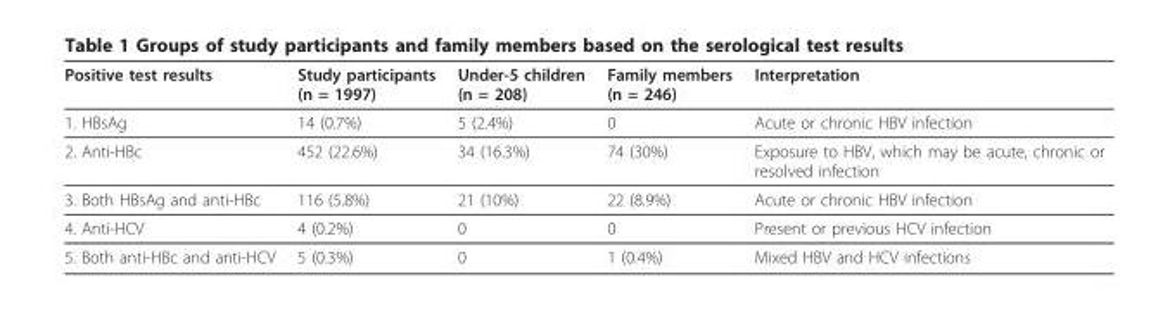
<table><thead><tr><td>Positive test results</td><td>Study participants (n = 1997)</td><td>Under-5 children (n = 208)</td><td>Family members (n = 246)</td><td>Interpretation</td></tr></thead><tbody><tr><td>1. HBsAg</td><td>14 (0.7%)</td><td>5 (2.4%)</td><td>0</td><td>Acute or chronic HBV infection</td></tr><tr><td>2. Anti-HBc</td><td>452 (22.6%)</td><td>34 (16.3%)</td><td>74 (30%)</td><td>Exposure to HBV, which may be acute, chronic or resolved infection</td></tr><tr><td>3. Both HBsAg and anti-HBc</td><td>116 (5.8%)</td><td>21 (10%)</td><td>22 (8.9%)</td><td>Acute or chronic HBV infection</td></tr><tr><td>4. Anti-HCV</td><td>4 (0.2%)</td><td>0</td><td>0</td><td>Present or previous HCV infection</td></tr><tr><td>5. Both anti-HBc and anti-HCV</td><td>5 (0.3%)</td><td>0</td><td>1 (0.4%)</td><td>Mixed HBV and HCV infections</td></tr></tbody></table>